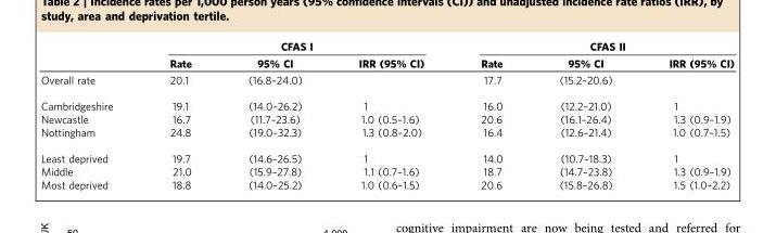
<table><thead><tr><td rowspan="2"></td><td colspan="3">CFAS I</td><td colspan="3">CFAS II</td></tr><tr><td>Rate</td><td>95% CI</td><td>IRR (95% CI)</td><td>Rate</td><td>95% CI</td><td>IRR (95% CI)</td></tr></thead><tbody><tr><td>Overall rate</td><td>20.1</td><td>(16.8–24.0)</td><td></td><td>17.7</td><td>(15.2–20.6)</td><td></td></tr><tr><td>Cambridgeshire</td><td>19.1</td><td>(14.0–26.2)</td><td>1</td><td>16.0</td><td>(12.2–21.0)</td><td>1</td></tr><tr><td>Newcastle</td><td>16.7</td><td>(11.7–23.6)</td><td>1.0 (0.5–1.6)</td><td>20.6</td><td>(16.1–26.4)</td><td>1.3 (0.9–1.9)</td></tr><tr><td>Nottingham</td><td>24.8</td><td>(19.0–32.3)</td><td>1.3 (0.8–2.0)</td><td>16.4</td><td>(12.6–21.4)</td><td>1.0 (0.7–1.5)</td></tr><tr><td>Least deprived</td><td>19.7</td><td>(14.6–26.5)</td><td>1</td><td>14.0</td><td>(10.7–18.3)</td><td>1</td></tr><tr><td>Middle</td><td>21.0</td><td>(15.9–27.8)</td><td>1.1 (0.7–1.6)</td><td>18.7</td><td>(14.7–23.8)</td><td>1.3 (0.9–1.9)</td></tr><tr><td>Most deprived</td><td>18.8</td><td>(14.0–25.2)</td><td>1.0 (0.6–1.5)</td><td>20.6</td><td>(15.8–26.8)</td><td>1.5 (1.0–2.2)</td></tr></tbody></table>